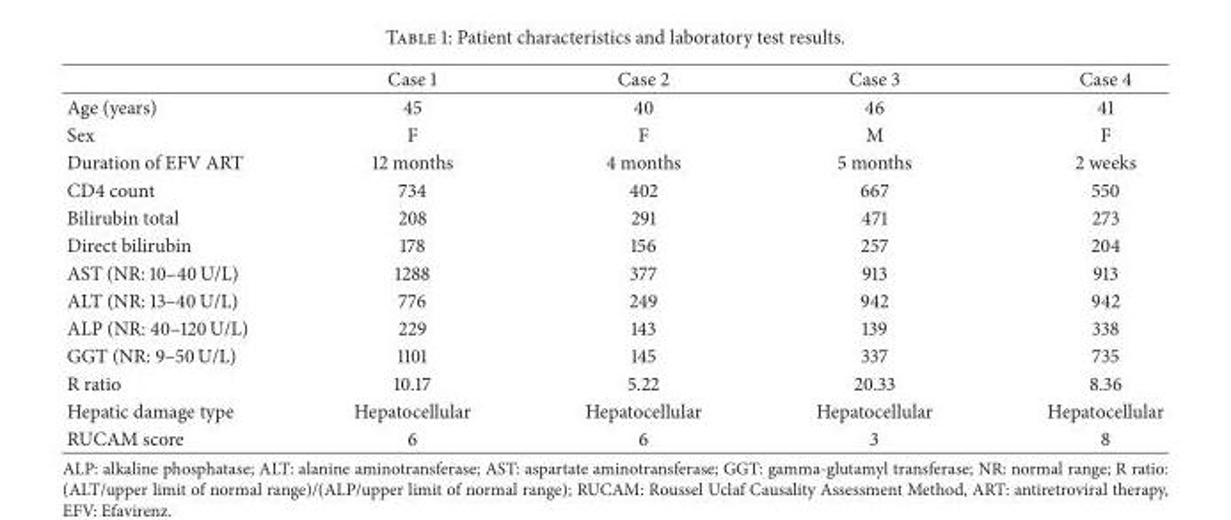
<table><thead><tr><td></td><td>Case 1</td><td>Case 2</td><td>Case 3</td><td>Case 4</td></tr></thead><tbody><tr><td>Age (years)</td><td>45</td><td>40</td><td>46</td><td>41</td></tr><tr><td>Sex</td><td>F</td><td>F</td><td>M</td><td>F</td></tr><tr><td>Duration of EFV ART</td><td>12 months</td><td>4 months</td><td>5 months</td><td>2 weeks</td></tr><tr><td>CD4 count</td><td>734</td><td>402</td><td>667</td><td>550</td></tr><tr><td>Bilirubin total</td><td>208</td><td>291</td><td>471</td><td>273</td></tr><tr><td>Direct bilirubin</td><td>178</td><td>156</td><td>257</td><td>204</td></tr><tr><td>AST (NR: 10–40 U/L)</td><td>1288</td><td>377</td><td>913</td><td>913</td></tr><tr><td>ALT (NR: 13–40 U/L)</td><td>776</td><td>249</td><td>942</td><td>942</td></tr><tr><td>ALP (NR: 40–120 U/L)</td><td>229</td><td>143</td><td>139</td><td>338</td></tr><tr><td>GGT (NR: 9–50 U/L)</td><td>1101</td><td>145</td><td>337</td><td>735</td></tr><tr><td>R ratio</td><td>10.17</td><td>5.22</td><td>20.33</td><td>8.36</td></tr><tr><td>Hepatic damage type</td><td>Hepatocellular</td><td>Hepatocellular</td><td>Hepatocellular</td><td>Hepatocellular</td></tr><tr><td>RUCAM score</td><td>6</td><td>6</td><td>3</td><td>8</td></tr></tbody></table>